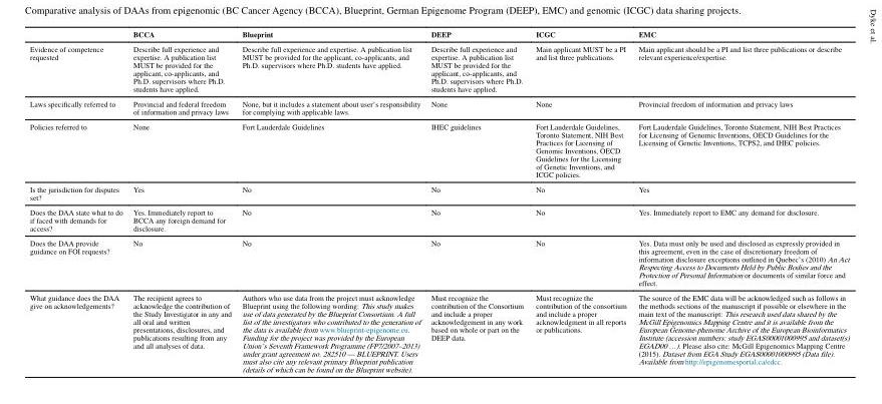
<table><thead><tr><td></td><td>BCCA</td><td>Blueprint</td><td>DEEP</td><td>ICGC</td><td>EMC</td></tr></thead><tbody><tr><td>Evidence of competence requested</td><td>Describe full experience and expertise. A publication list MUST be provided for the applicant, co-applicants, and Ph.D. supervisors where Ph.D. students have applied.</td><td>Describe full experience and expertise. A publication list MUST be provided for the applicant, co-applicants, and Ph.D. supervisors where Ph.D. students have applied.</td><td>Describe full experience and expertise. A publication list MUST be provided for the applicant, co-applicants, and Ph.D. supervisors where Ph.D. students have applied.</td><td>Main applicant MUST be a PI and list three publications.</td><td>Main applicant should be a PI and list three publications or describe relevant experience/expertise.</td></tr><tr><td>Laws specifically referred to</td><td>Provincial and federal freedom of information and privacy laws</td><td>None, but it includes a statement about user’s responsibility for complying with applicable laws.</td><td>None</td><td>None</td><td>Provincial freedom of information and privacy laws</td></tr><tr><td>Policies referred to</td><td>None</td><td>Fort Lauderdale Guidelines</td><td>IHEC guidelines</td><td>Fort Lauderdale Guidelines, Toronto Statement, NIH Best Practices for Licensing of Genomic Inventions, OECD Guidelines for the Licensing of Genetic Inventions, and ICGC policies.</td><td>Fort Lauderdale Guidelines, Toronto Statement, NIH Best Practices for Licensing of Genomic Inventions, OECD Guidelines for the Licensing of Genetic Inventions, TCPS2, and IHEC policies.</td></tr><tr><td>Is the jurisdiction for disputes set?</td><td>Yes</td><td>No</td><td>No</td><td>No</td><td>Yes</td></tr><tr><td>Does the DAA state what to do if faced with demands for access?</td><td>Yes. Immediately report to BCCA any foreign demand for disclosure.</td><td>No</td><td>No</td><td>No</td><td>Yes. Immediately report to EMC any demand for disclosure.</td></tr><tr><td>Does the DAA provide guidance on FOI requests?</td><td>No</td><td>No</td><td>No</td><td>No</td><td>Yes. Data must only be used and disclosed as expressly provided in this agreement, even in the case of discretionary freedom of information disclosure exceptions outlined in Quebec’s (2010) An Act Respecting Access to Documents Held by Public Bodies and the Protection of Personal Information or documents of similar force and effect.</td></tr><tr><td>What guidance does the DAA give on acknowledgements?</td><td>The recipient agrees to acknowledge the contribution of the Study Investigator in any and all oral and written presentations, disclosures, and publications resulting from any and all analyses of data.</td><td>Authors who use data from the project must acknowledge Blueprint using the following wording: This study makes use of data generated by the Blueprint Consortium. A full list of the investigators who contributed to the generation of the data is available from www.blueprint-epigenome.eu. Funding for the project was provided by the European Union’s Seventh Framework Programme (FP7/2007–2013) under grant agreement no. 282510 — BLUEPRINT. Users must also cite any relevant primary Blueprint publication (details of which can be found on the Blueprint website).</td><td>Must recognize the contribution of the Consortium and include a proper acknowledgement in any work based on whole or part on the DEEP data.</td><td>Must recognize the contribution of the consortium and include a proper acknowledgment in all reports or publications.</td><td>The source of the EMC data will be acknowledged such as follows in the methods sections of the manuscript if possible or elsewhere in the main text of the manuscript: This research used data shared by the McGill Epigenomics Mapping Centre and it is available from the European Genome-phenome Archive of the European Bioinformatics Institute (accession numbers: study EGAS00001000995 and dataset(s) EGAD00 …). Please also cite: McGill Epigenomics Mapping Centre (2015). Dataset from EGA Study EGAS00001000995 (Data file). Available from http://epigenomesportal.ca/edcc.</td></tr></tbody></table>